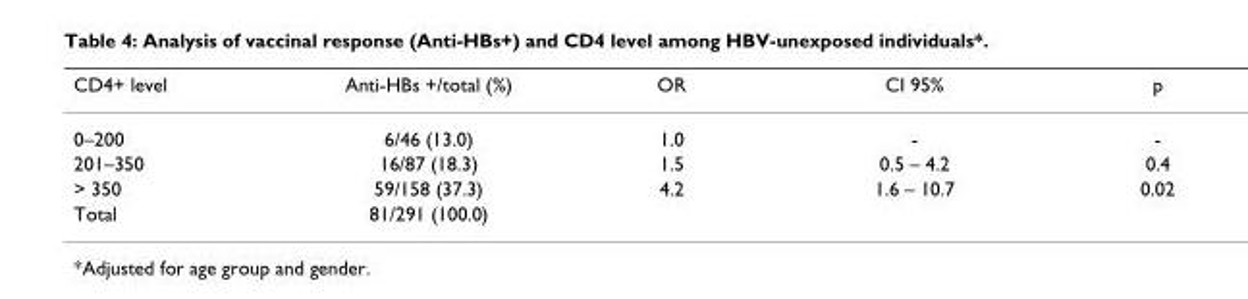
<table><thead><tr><td>CD4+ level</td><td>Anti-HBs +/total (%)</td><td>OR</td><td>CI 95%</td><td>p</td></tr></thead><tbody><tr><td>0–200</td><td>6/46 (13.0)</td><td>1.0</td><td>-</td><td>-</td></tr><tr><td>201–350</td><td>16/87 (18.3)</td><td>1.5</td><td>0.5 – 4.2</td><td>0.4</td></tr><tr><td>&gt; 350</td><td>59/158 (37.3)</td><td>4.2</td><td>1.6 – 10.7</td><td>0.02</td></tr><tr><td>Total</td><td>81/291 (100.0)</td><td></td><td></td><td></td></tr></tbody></table>